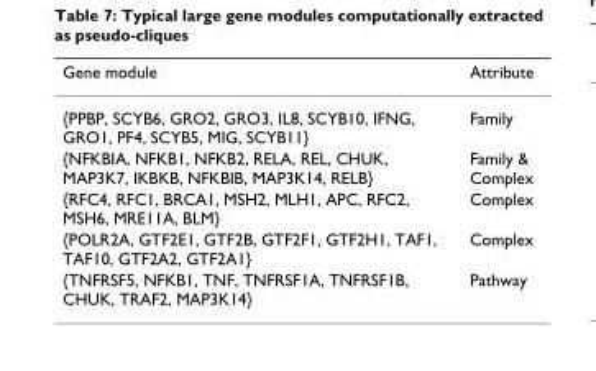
<table><thead><tr><td>Gene module</td><td>Attribute</td></tr></thead><tbody><tr><td>{PPBP, SCYB6, GRO2, GRO3, IL8, SCYB10, IFNG, GRO1, PF4, SCYB5, MIG, SCYB11}</td><td>Family</td></tr><tr><td>{NFKBIA, NFKB1, NFKB2, RELA, REL, CHUK, MAP3K7, IKBKB, NFKBIB, MAP3K14, RELB}</td><td>Family &amp; Complex</td></tr><tr><td>{RFC4, RFC1, BRCA1, MSH2, MLH1, APC, RFC2, MSH6, MRE11A, BLM}</td><td>Complex</td></tr><tr><td>{POLR2A, GTF2E1, GTF2B, GTF2F1, GTF2H1, TAF1, TAF10, GTF2A2, GTF2A1}</td><td>Complex</td></tr><tr><td>{TNFRSF5, NFKB1, TNF, TNFRSF1A, TNFRSF1B, CHUK, TRAF2, MAP3K14}</td><td>Pathway</td></tr></tbody></table>